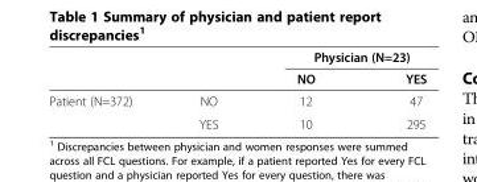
<table><thead><tr><td rowspan="2"></td><td rowspan="2"></td><td colspan="2">Physician (N=23)</td></tr><tr><td>NO</td><td>YES</td></tr></thead><tbody><tr><td rowspan="2">Patient (N=372)</td><td>NO</td><td>12</td><td>47</td></tr><tr><td>YES</td><td>10</td><td>295</td></tr></tbody></table>